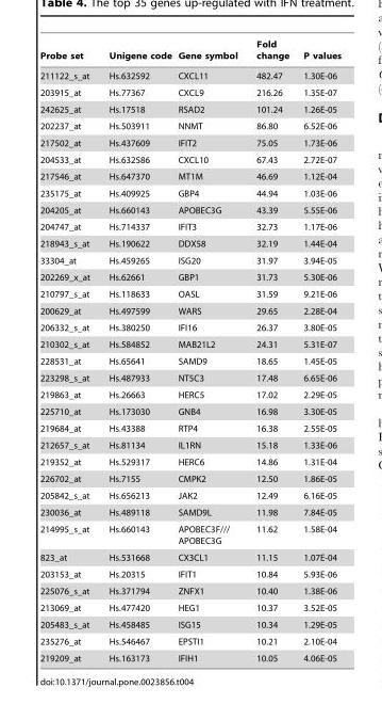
<table><thead><tr><td>Probe set</td><td>Unigene code</td><td>Gene symbol</td><td>Fold change</td><td>P values</td></tr></thead><tbody><tr><td>211122_s_at</td><td>Hs.632592</td><td>CXCL11</td><td>482.47</td><td>1.30E-06</td></tr><tr><td>203915_at</td><td>Hs.77367</td><td>CXCL9</td><td>216.26</td><td>1.35E-07</td></tr><tr><td>242625_at</td><td>Hs.17518</td><td>RSAD2</td><td>101.24</td><td>1.26E-05</td></tr><tr><td>202237_at</td><td>Hs.503911</td><td>NNMT</td><td>86.80</td><td>6.52E-06</td></tr><tr><td>217502_at</td><td>Hs.437609</td><td>IFIT2</td><td>75.05</td><td>1.73E-06</td></tr><tr><td>204533_at</td><td>Hs.632586</td><td>CXCL10</td><td>67.43</td><td>2.72E-07</td></tr><tr><td>217546_at</td><td>Hs.647370</td><td>MT1M</td><td>46.69</td><td>1.12E-04</td></tr><tr><td>235175_at</td><td>Hs.409925</td><td>GBP4</td><td>44.94</td><td>1.03E-06</td></tr><tr><td>204205_at</td><td>Hs.660143</td><td>APOBEC3G</td><td>43.39</td><td>5.55E-06</td></tr><tr><td>204747_at</td><td>Hs.714337</td><td>IFIT3</td><td>32.73</td><td>1.17E-06</td></tr><tr><td>218943_s_at</td><td>Hs.190622</td><td>DDX58</td><td>32.19</td><td>1.44E-04</td></tr><tr><td>33304_at</td><td>Hs.459265</td><td>ISG20</td><td>31.97</td><td>3.94E-05</td></tr><tr><td>202269_x_at</td><td>Hs.62661</td><td>GBP1</td><td>31.73</td><td>5.30E-06</td></tr><tr><td>210797_s_at</td><td>Hs.118633</td><td>OASL</td><td>31.59</td><td>9.21E-06</td></tr><tr><td>200629_at</td><td>Hs.497599</td><td>WARS</td><td>29.65</td><td>2.28E-04</td></tr><tr><td>206332_s_at</td><td>Hs.380250</td><td>IFI16</td><td>26.37</td><td>3.80E-05</td></tr><tr><td>210302_s_at</td><td>Hs.584852</td><td>MAB21L2</td><td>24.31</td><td>5.31E-07</td></tr><tr><td>228531_at</td><td>Hs.65641</td><td>SAMD9</td><td>18.65</td><td>1.45E-05</td></tr><tr><td>223298_s_at</td><td>Hs.487933</td><td>NT5C3</td><td>17.48</td><td>6.65E-06</td></tr><tr><td>219863_at</td><td>Hs.26663</td><td>HERC5</td><td>17.02</td><td>2.29E-05</td></tr><tr><td>225710_at</td><td>Hs.173030</td><td>GNB4</td><td>16.98</td><td>3.30E-05</td></tr><tr><td>219684_at</td><td>Hs.43388</td><td>RTP4</td><td>16.38</td><td>2.55E-05</td></tr><tr><td>212657_s_at</td><td>Hs.81134</td><td>IL1RN</td><td>15.18</td><td>1.33E-06</td></tr><tr><td>219352_at</td><td>Hs.529317</td><td>HERC6</td><td>14.86</td><td>1.31E-04</td></tr><tr><td>226702_at</td><td>Hs.7155</td><td>CMPK2</td><td>12.50</td><td>1.86E-05</td></tr><tr><td>205842_s_at</td><td>Hs.656213</td><td>JAK2</td><td>12.49</td><td>6.16E-05</td></tr><tr><td>230036_at</td><td>Hs.489118</td><td>SAMD9L</td><td>11.98</td><td>7.84E-05</td></tr><tr><td>214995_s_at</td><td>Hs.660143</td><td>APOBEC3F/// APOBEC3G</td><td>11.62</td><td>1.58E-04</td></tr><tr><td>823_at</td><td>Hs.531668</td><td>CX3CL1</td><td>11.15</td><td>1.07E-04</td></tr><tr><td>203153_at</td><td>Hs.20315</td><td>IFIT1</td><td>10.84</td><td>5.93E-06</td></tr><tr><td>225076_s_at</td><td>Hs.371794</td><td>ZNFX1</td><td>10.40</td><td>1.38E-06</td></tr><tr><td>213069_at</td><td>Hs.477420</td><td>HEG1</td><td>10.37</td><td>3.52E-05</td></tr><tr><td>205483_s_at</td><td>Hs.458485</td><td>ISG15</td><td>10.34</td><td>1.29E-05</td></tr><tr><td>235276_at</td><td>Hs.546467</td><td>EPSTI1</td><td>10.21</td><td>2.10E-04</td></tr><tr><td>219209_at</td><td>Hs.163173</td><td>IFIH1</td><td>10.05</td><td>4.06E-05</td></tr></tbody></table>